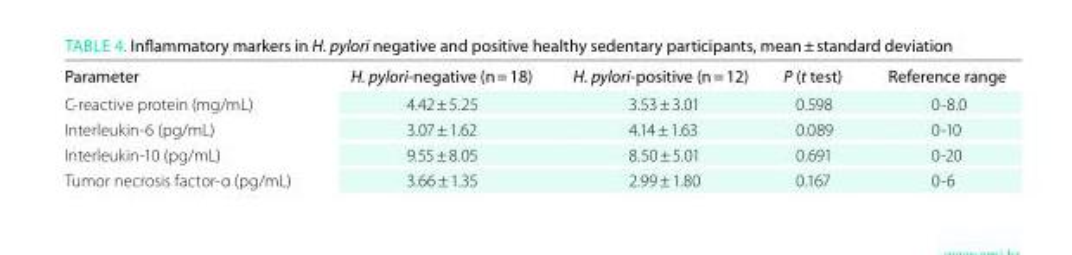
<table><thead><tr><td>Parameter</td><td>H. pylori-negative (n = 18)</td><td>H. pylori-positive (n = 12)</td><td>P (t test)</td><td>reference range</td></tr></thead><tbody><tr><td>C-reactive protein (mg/mL)</td><td>4.42 ± 5.25</td><td>3.53 ± 3.01</td><td>0.598</td><td>0-8.0</td></tr><tr><td>Interleukin-6 (pg/mL)</td><td>3.07 ± 1.62</td><td>4.14 ± 1.63</td><td>0.089</td><td>0-10</td></tr><tr><td>Interleukin-10 (pg/mL)</td><td>9.55 ± 8.05</td><td>8.50 ± 5.01</td><td>0.691</td><td>0-20</td></tr><tr><td>Tumor necrosis factor-α (pg/mL)</td><td>3.66 ± 1.35</td><td>2.99 ± 1.80</td><td>0.167</td><td>0-6</td></tr></tbody></table>